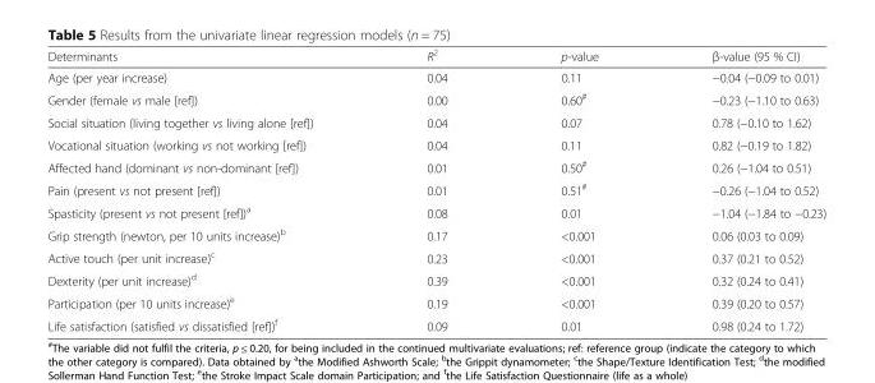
<table><thead><tr><td>Determinants</td><td>R<sup>2</sup></td><td>p-value</td><td>β-value (95 % CI)</td></tr></thead><tbody><tr><td>Age (per year increase)</td><td>0.04</td><td>0.11</td><td>−0.04 (−0.09 to 0.01)</td></tr><tr><td>Gender (female vs male [ref])</td><td>0.00</td><td>0.60<sup>#</sup></td><td>−0.23 (−1.10 to 0.63)</td></tr><tr><td>Social situation (living together vs living alone [ref])</td><td>0.04</td><td>0.07</td><td>0.78 (−0.10 to 1.62)</td></tr><tr><td>Vocational situation (working vs not working [ref])</td><td>0.04</td><td>0.11</td><td>0.82 (−0.19 to 1.82)</td></tr><tr><td>Affected hand (dominant vs non-dominant [ref])</td><td>0.01</td><td>0.50<sup>#</sup></td><td>0.26 (−1.04 to 0.51)</td></tr><tr><td>Pain (present vs not present [ref])</td><td>0.01</td><td>0.51<sup>#</sup></td><td>−0.26 (−1.04 to 0.52)</td></tr><tr><td>Spasticity (present vs not present [ref])<sup>a</sup></td><td>0.08</td><td>0.01</td><td>−1.04 (−1.84 to −0.23)</td></tr><tr><td>Grip strength (newton, per 10 units increase)<sup>b</sup></td><td>0.17</td><td>&lt;0.001</td><td>0.06 (0.03 to 0.09)</td></tr><tr><td>Active touch (per unit increase)<sup>c</sup></td><td>0.23</td><td>&lt;0.001</td><td>0.37 (0.21 to 0.52)</td></tr><tr><td>Dexterity (per unit increase)<sup>d</sup></td><td>0.39</td><td>&lt;0.001</td><td>0.32 (0.24 to 0.41)</td></tr><tr><td>Participation (per 10 units increase)<sup>e</sup></td><td>0.19</td><td>&lt;0.001</td><td>0.39 (0.20 to 0.57)</td></tr><tr><td>Life satisfaction (satisfied vs dissatisfied [ref])<sup>f</sup></td><td>0.09</td><td>0.01</td><td>0.98 (0.24 to 1.72)</td></tr></tbody></table>